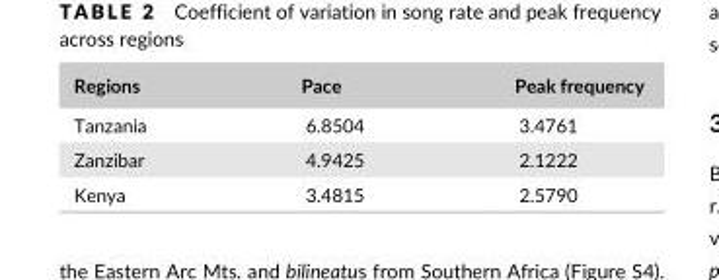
<table><thead><tr><td>Regions</td><td>Pace</td><td>Peak frequency</td></tr></thead><tbody><tr><td>Tanzania</td><td>6.8504</td><td>3.4761</td></tr><tr><td>Zanzibar</td><td>4.9425</td><td>2.1222</td></tr><tr><td>Kenya</td><td>3.4815</td><td>2.5790</td></tr></tbody></table>